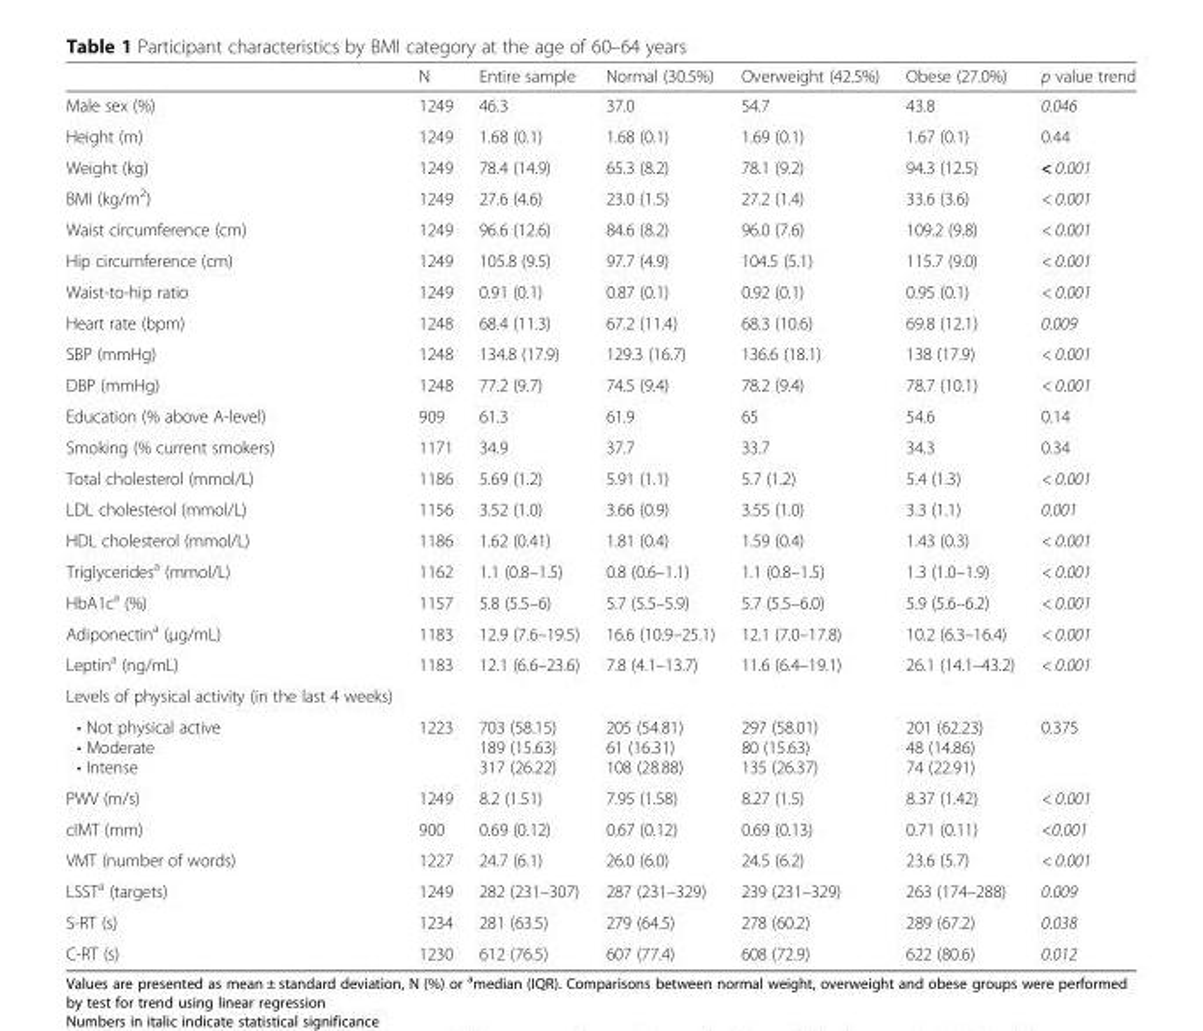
<table><thead><tr><td></td><td>N</td><td>Entire sample</td><td>Normal (30.5%)</td><td>Overweight (42.5%)</td><td>Obese (27.0%)</td><td>p value trend</td></tr></thead><tbody><tr><td>Male sex (%)</td><td>1249</td><td>46.3</td><td>37.0</td><td>54.7</td><td>43.8</td><td>0.046</td></tr><tr><td>Height (m)</td><td>1249</td><td>1.68 (0.1)</td><td>1.68 (0.1)</td><td>1.69 (0.1)</td><td>1.67 (0.1)</td><td>0.44</td></tr><tr><td>Weight (kg)</td><td>1249</td><td>78.4 (14.9)</td><td>65.3 (8.2)</td><td>78.1 (9.2)</td><td>94.3 (12.5)</td><td>&lt; 0.001</td></tr><tr><td>BMI (kg/m<sup>2</sup>)</td><td>1249</td><td>27.6 (4.6)</td><td>23.0 (1.5)</td><td>27.2 (1.4)</td><td>33.6 (3.6)</td><td>&lt; 0.001</td></tr><tr><td>Waist circumference (cm)</td><td>1249</td><td>96.6 (12.6)</td><td>84.6 (8.2)</td><td>96.0 (7.6)</td><td>109.2 (9.8)</td><td>&lt; 0.001</td></tr><tr><td>Hip circumference (cm)</td><td>1249</td><td>105.8 (9.5)</td><td>97.7 (4.9)</td><td>104.5 (5.1)</td><td>115.7 (9.0)</td><td>&lt; 0.001</td></tr><tr><td>Waist-to-hip ratio</td><td>1249</td><td>0.91 (0.1)</td><td>0.87 (0.1)</td><td>0.92 (0.1)</td><td>0.95 (0.1)</td><td>&lt; 0.001</td></tr><tr><td>Heart rate (bpm)</td><td>1248</td><td>68.4 (11.3)</td><td>67.2 (11.4)</td><td>68.3 (10.6)</td><td>69.8 (12.1)</td><td>0.009</td></tr><tr><td>SBP (mmHg)</td><td>1248</td><td>134.8 (17.9)</td><td>129.3 (16.7)</td><td>136.6 (18.1)</td><td>138 (17.9)</td><td>&lt; 0.001</td></tr><tr><td>DBP (mmHg)</td><td>1248</td><td>77.2 (9.7)</td><td>74.5 (9.4)</td><td>78.2 (9.4)</td><td>78.7 (10.1)</td><td>&lt; 0.001</td></tr><tr><td>Education (% above A-level)</td><td>909</td><td>61.3</td><td>61.9</td><td>65</td><td>54.6</td><td>0.14</td></tr><tr><td>Smoking (% current smokers)</td><td>1171</td><td>34.9</td><td>37.7</td><td>33.7</td><td>34.3</td><td>0.34</td></tr><tr><td>Total cholesterol (mmol/L)</td><td>1186</td><td>5.69 (1.2)</td><td>5.91 (1.1)</td><td>5.7 (1.2)</td><td>5.4 (1.3)</td><td>&lt; 0.001</td></tr><tr><td>LDL cholesterol (mmol/L)</td><td>1156</td><td>3.52 (1.0)</td><td>3.66 (0.9)</td><td>3.55 (1.0)</td><td>3.3 (1.1)</td><td>0.001</td></tr><tr><td>HDL cholesterol (mmol/L)</td><td>1186</td><td>1.62 (0.41)</td><td>1.81 (0.4)</td><td>1.59 (0.4)</td><td>1.43 (0.3)</td><td>&lt; 0.001</td></tr><tr><td>Triglycerides<sup>a</sup> (mmol/L)</td><td>1162</td><td>1.1 (0.8–1.5)</td><td>0.8 (0.6–1.1)</td><td>1.1 (0.8–1.5)</td><td>1.3 (1.0–1.9)</td><td>&lt; 0.001</td></tr><tr><td>HbA1c<sup>a</sup> (%)</td><td>1157</td><td>5.8 (5.5–6)</td><td>5.7 (5.5–5.9)</td><td>5.7 (5.5–6.0)</td><td>5.9 (5.6–6.2)</td><td>&lt; 0.001</td></tr><tr><td>Adiponectin<sup>a</sup> (μg/mL)</td><td>1183</td><td>12.9 (7.6–19.5)</td><td>16.6 (10.9–25.1)</td><td>12.1 (7.0–17.8)</td><td>10.2 (6.3–16.4)</td><td>&lt; 0.001</td></tr><tr><td>Leptin<sup>a</sup> (ng/mL)</td><td>1183</td><td>12.1 (6.6–23.6)</td><td>7.8 (4.1–13.7)</td><td>11.6 (6.4–19.1)</td><td>26.1 (14.1–43.2)</td><td>&lt; 0.001</td></tr><tr><td colspan="7">Levels of physical activity (in the last 4 weeks)</td></tr><tr><td>• Not physical active • Moderate • Intense</td><td>1223</td><td>703 (58.15) 189 (15.63) 317 (26.22)</td><td>205 (54.81) 61 (16.31) 108 (28.88)</td><td>297 (58.01) 80 (15.63) 135 (26.37)</td><td>201 (62.23) 48 (14.86) 74 (22.91)</td><td>0.375</td></tr><tr><td>PWV (m/s)</td><td>1249</td><td>8.2 (1.51)</td><td>7.95 (1.58)</td><td>8.27 (1.5)</td><td>8.37 (1.42)</td><td>&lt; 0.001</td></tr><tr><td>cIMT (mm)</td><td>900</td><td>0.69 (0.12)</td><td>0.67 (0.12)</td><td>0.69 (0.13)</td><td>0.71 (0.11)</td><td>&lt;0.001</td></tr><tr><td>VMT (number of words)</td><td>1227</td><td>24.7 (6.1)</td><td>26.0 (6.0)</td><td>24.5 (6.2)</td><td>23.6 (5.7)</td><td>&lt; 0.001</td></tr><tr><td>LSST<sup>a</sup> (targets)</td><td>1249</td><td>282 (231–307)</td><td>287 (231–329)</td><td>239 (231–329)</td><td>263 (174–288)</td><td>0.009</td></tr><tr><td>S-RT (s)</td><td>1234</td><td>281 (63.5)</td><td>279 (64.5)</td><td>278 (60.2)</td><td>289 (67.2)</td><td>0.038</td></tr><tr><td>C-RT (s)</td><td>1230</td><td>612 (76.5)</td><td>607 (77.4)</td><td>608 (72.9)</td><td>622 (80.6)</td><td>0.012</td></tr></tbody></table>